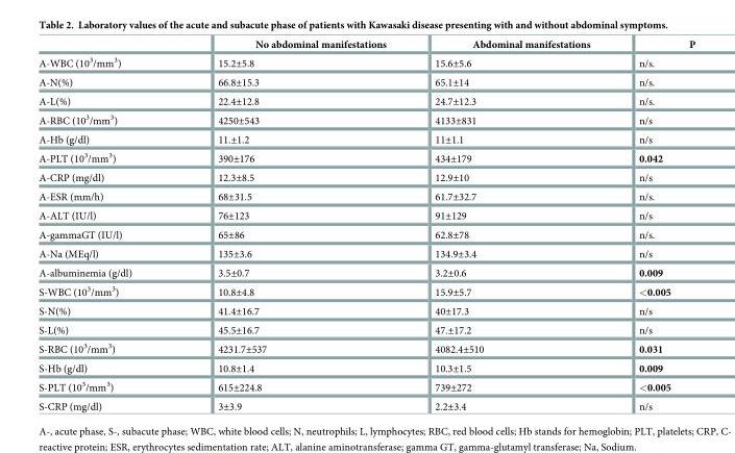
<table><thead><tr><td></td><td>No abdominal manifestations</td><td>Abdominal manifestations</td><td>P</td></tr></thead><tbody><tr><td>A-WBC (10<sup>3</sup>/mm<sup>3</sup>)</td><td>15.2±5.8</td><td>15.6±5.6</td><td>n/s.</td></tr><tr><td>A-N(%)</td><td>66.8±15.3</td><td>65.1±14</td><td>n/s.</td></tr><tr><td>A-L(%)</td><td>22.4±12.8</td><td>24.7±12.3</td><td>n/s.</td></tr><tr><td>A-RBC (10<sup>3</sup>/mm<sup>3</sup>)</td><td>4250±543</td><td>4133±831</td><td>n/s</td></tr><tr><td>A-Hb (g/dl)</td><td>11.±1.2</td><td>11±1.1</td><td>n/s</td></tr><tr><td>A-PLT (10<sup>3</sup>/mm<sup>3</sup>)</td><td>390±176</td><td>434±179</td><td>0.042</td></tr><tr><td>A-CRP (mg/dl)</td><td>12.3±8.5</td><td>12.9±10</td><td>n/s</td></tr><tr><td>A-ESR (mm/h)</td><td>68±31.5</td><td>61.7±32.7</td><td>n/s.</td></tr><tr><td>A-ALT (IU/l)</td><td>76±123</td><td>91±129</td><td>n/s</td></tr><tr><td>A-gammaGT (IU/l)</td><td>65±86</td><td>62.8±78</td><td>n/s.</td></tr><tr><td>A-Na (MEq/l)</td><td>135±3.6</td><td>134.9±3.4</td><td>n/s</td></tr><tr><td>A-albuminemia (g/dl)</td><td>3.5±0.7</td><td>3.2±0.6</td><td>0.009</td></tr><tr><td>S-WBC (10<sup>3</sup>/mm<sup>3</sup>)</td><td>10.8±4.8</td><td>15.9±5.7</td><td>&lt;0.005</td></tr><tr><td>S-N(%)</td><td>41.4±16.7</td><td>40±17.3</td><td>n/s</td></tr><tr><td>S-L(%)</td><td>45.5±16.7</td><td>47.±17.2</td><td>n/s</td></tr><tr><td>S-RBC (10<sup>3</sup>/mm<sup>3</sup>)</td><td>4231.7±537</td><td>4082.4±510</td><td>0.031</td></tr><tr><td>S-Hb (g/dl)</td><td>10.8±1.4</td><td>10.3±1.5</td><td>0.009</td></tr><tr><td>S-PLT (10<sup>3</sup>/mm<sup>3</sup>)</td><td>615±224.8</td><td>739±272</td><td>&lt;0.005</td></tr><tr><td>S-CRP (mg/dl)</td><td>3±3.9</td><td>2.2±3.4</td><td>n/s</td></tr></tbody></table>